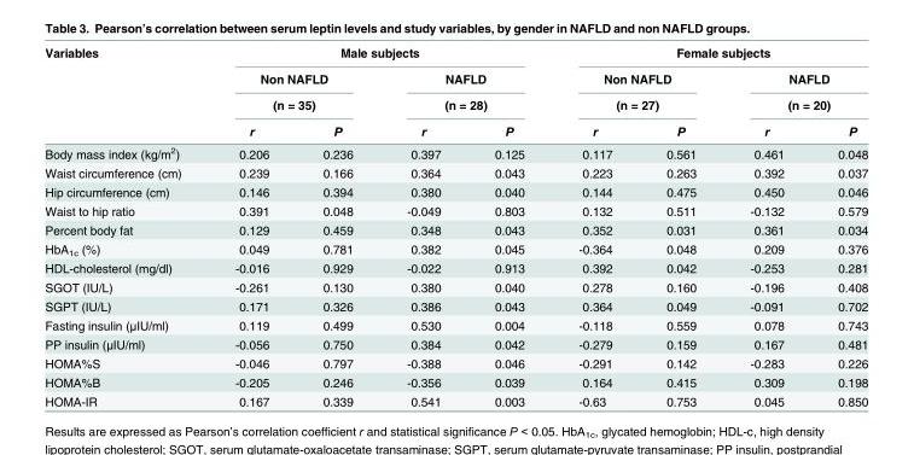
<table><thead><tr><td rowspan="4">Variables</td><td colspan="4">Male subjects</td><td colspan="4">Female subjects</td></tr><tr><td rowspan="2" colspan="2">Non NAFLD (n = 35)</td><td rowspan="2" colspan="2">NAFLD (n = 28)</td><td rowspan="2" colspan="2">Non NAFLD (n = 27)</td><td rowspan="2" colspan="2">NAFLD (n = 20)</td></tr><tr></tr><tr><td>r</td><td>P</td><td>r</td><td>P</td><td>r</td><td>P</td><td>r</td><td>P</td></tr></thead><tbody><tr><td>Body mass index (kg/m<sup>2</sup>)</td><td>0.206</td><td>0.236</td><td>0.397</td><td>0.125</td><td>0.117</td><td>0.561</td><td>0.461</td><td>0.048</td></tr><tr><td>Waist circumference (cm)</td><td>0.239</td><td>0.166</td><td>0.364</td><td>0.043</td><td>0.223</td><td>0.263</td><td>0.392</td><td>0.037</td></tr><tr><td>Hip circumference (cm)</td><td>0.146</td><td>0.394</td><td>0.380</td><td>0.040</td><td>0.144</td><td>0.475</td><td>0.450</td><td>0.046</td></tr><tr><td>Waist to hip ratio</td><td>0.391</td><td>0.048</td><td>-0.049</td><td>0.803</td><td>0.132</td><td>0.511</td><td>-0.132</td><td>0.579</td></tr><tr><td>Percent body fat</td><td>0.129</td><td>0.459</td><td>0.348</td><td>0.043</td><td>0.352</td><td>0.031</td><td>0.361</td><td>0.034</td></tr><tr><td>HbA<sub>1c</sub> (%)</td><td>0.049</td><td>0.781</td><td>0.382</td><td>0.045</td><td>-0.364</td><td>0.048</td><td>0.209</td><td>0.376</td></tr><tr><td>HDL-cholesterol (mg/dl)</td><td>-0.016</td><td>0.929</td><td>-0.022</td><td>0.913</td><td>0.392</td><td>0.042</td><td>-0.253</td><td>0.281</td></tr><tr><td>SGOT (IU/L)</td><td>-0.261</td><td>0.130</td><td>0.380</td><td>0.040</td><td>0.278</td><td>0.160</td><td>-0.196</td><td>0.408</td></tr><tr><td>SGPT (IU/L)</td><td>0.171</td><td>0.326</td><td>0.386</td><td>0.043</td><td>0.364</td><td>0.049</td><td>-0.091</td><td>0.702</td></tr><tr><td>Fasting insulin (μIU/ml)</td><td>0.119</td><td>0.499</td><td>0.530</td><td>0.004</td><td>-0.118</td><td>0.559</td><td>0.078</td><td>0.743</td></tr><tr><td>PP insulin (μIU/ml)</td><td>-0.056</td><td>0.750</td><td>0.384</td><td>0.042</td><td>-0.279</td><td>0.159</td><td>0.167</td><td>0.481</td></tr><tr><td>HOMA%S</td><td>-0.046</td><td>0.797</td><td>-0.388</td><td>0.046</td><td>-0.291</td><td>0.142</td><td>-0.283</td><td>0.226</td></tr><tr><td>HOMA%B</td><td>-0.205</td><td>0.246</td><td>-0.356</td><td>0.039</td><td>0.164</td><td>0.415</td><td>0.309</td><td>0.198</td></tr><tr><td>HOMA-IR</td><td>0.167</td><td>0.339</td><td>0.541</td><td>0.003</td><td>-0.63</td><td>0.753</td><td>0.045</td><td>0.850</td></tr></tbody></table>